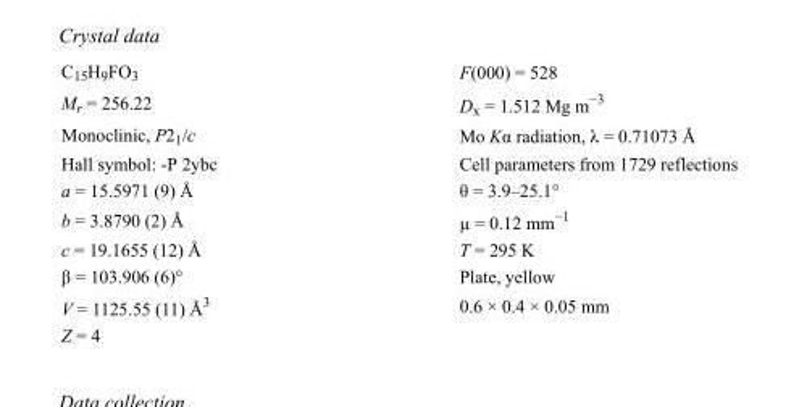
<table><tbody><tr><td>C<sub>15</sub>H<sub>9</sub>FO<sub>3</sub></td><td>F(000) = 528</td></tr><tr><td>M<sub>r</sub> = 256.22</td><td>D<sub>x</sub> = 1.512 Mg m<sup>−3</sup></td></tr><tr><td>Monoclinic, P2<sub>1</sub>/c</td><td>Mo Kα radiation, λ = 0.71073 Å</td></tr><tr><td>Hall symbol: -P 2ybc</td><td>Cell parameters from 1729 reflections</td></tr><tr><td>a = 15.5971 (9) Å</td><td>θ = 3.9–25.1°</td></tr><tr><td>b = 3.8790 (2) Å</td><td>µ = 0.12 mm<sup>−1</sup></td></tr><tr><td>c = 19.1655 (12) Å</td><td>T = 295 K</td></tr><tr><td>β = 103.906 (6)°</td><td>Plate, yellow</td></tr><tr><td>V = 1125.55 (11) Å<sup>3</sup></td><td>0.6 × 0.4 × 0.05 mm</td></tr><tr><td>Z = 4</td><td></td></tr></tbody></table>